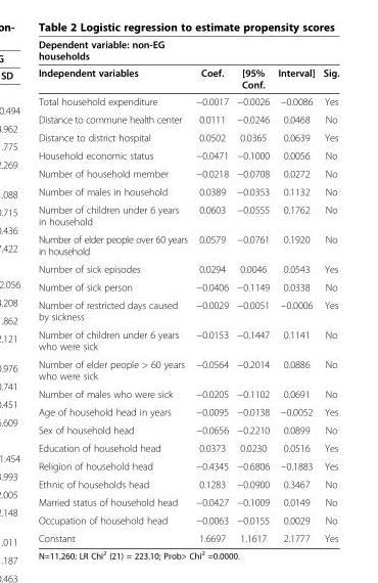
<table><thead><tr><td>Dependent variable: non-EG households</td><td></td><td></td><td></td><td></td></tr></thead><tbody><tr><td>Independent variables</td><td>Coef.</td><td>[95% Conf.</td><td>Interval]</td><td>Sig.</td></tr><tr><td>Total household expenditure</td><td>−0.0017</td><td>−0.0026</td><td>−0.0086</td><td>Yes</td></tr><tr><td>Distance to commune health center</td><td>0.0111</td><td>−0.0246</td><td>0.0468</td><td>No</td></tr><tr><td>Distance to district hospital</td><td>0.0502</td><td>0.0365</td><td>0.0639</td><td>Yes</td></tr><tr><td>Household economic status</td><td>−0.0471</td><td>−0.1000</td><td>0.0056</td><td>No</td></tr><tr><td>Number of household member</td><td>−0.0218</td><td>−0.0708</td><td>0.0272</td><td>No</td></tr><tr><td>Number of males in household</td><td>0.0389</td><td>−0.0353</td><td>0.1132</td><td>No</td></tr><tr><td>Number of children under 6 years in household</td><td>0.0603</td><td>−0.0555</td><td>0.1762</td><td>No</td></tr><tr><td>Number of elder people over 60 years in household</td><td>0.0579</td><td>−0.0761</td><td>0.1920</td><td>No</td></tr><tr><td>Number of sick episodes</td><td>0.0294</td><td>0.0046</td><td>0.0543</td><td>Yes</td></tr><tr><td>Number of sick person</td><td>−0.0406</td><td>−0.1149</td><td>0.0338</td><td>No</td></tr><tr><td>Number of restricted days caused by sickness</td><td>−0.0029</td><td>−0.0051</td><td>−0.0006</td><td>Yes</td></tr><tr><td>Number of children under 6 years who were sick</td><td>−0.0153</td><td>−0.1447</td><td>0.1141</td><td>No</td></tr><tr><td>Number of elder people &gt; 60 years who were sick</td><td>−0.0564</td><td>−0.2014</td><td>0.0886</td><td>No</td></tr><tr><td>Number of males who were sick</td><td>−0.0205</td><td>−0.1102</td><td>0.0691</td><td>No</td></tr><tr><td>Age of household head in years</td><td>−0.0095</td><td>−0.0138</td><td>−0.0052</td><td>Yes</td></tr><tr><td>Sex of household head</td><td>−0.0656</td><td>−0.2210</td><td>0.0899</td><td>No</td></tr><tr><td>Education of household head</td><td>0.0373</td><td>0.0230</td><td>0.0516</td><td>Yes</td></tr><tr><td>Religion of household head</td><td>−0.4345</td><td>−0.6806</td><td>−0.1883</td><td>Yes</td></tr><tr><td>Ethnic of households head</td><td>0.1283</td><td>−0.0900</td><td>0.3467</td><td>No</td></tr><tr><td>Married status of household head</td><td>−0.0427</td><td>−0.1009</td><td>0.0149</td><td>No</td></tr><tr><td>Occupation of household head</td><td>−0.0063</td><td>−0.0155</td><td>0.0029</td><td>No</td></tr><tr><td>Constant</td><td>1.6697</td><td>1.1617</td><td>2.1777</td><td>Yes</td></tr></tbody></table>